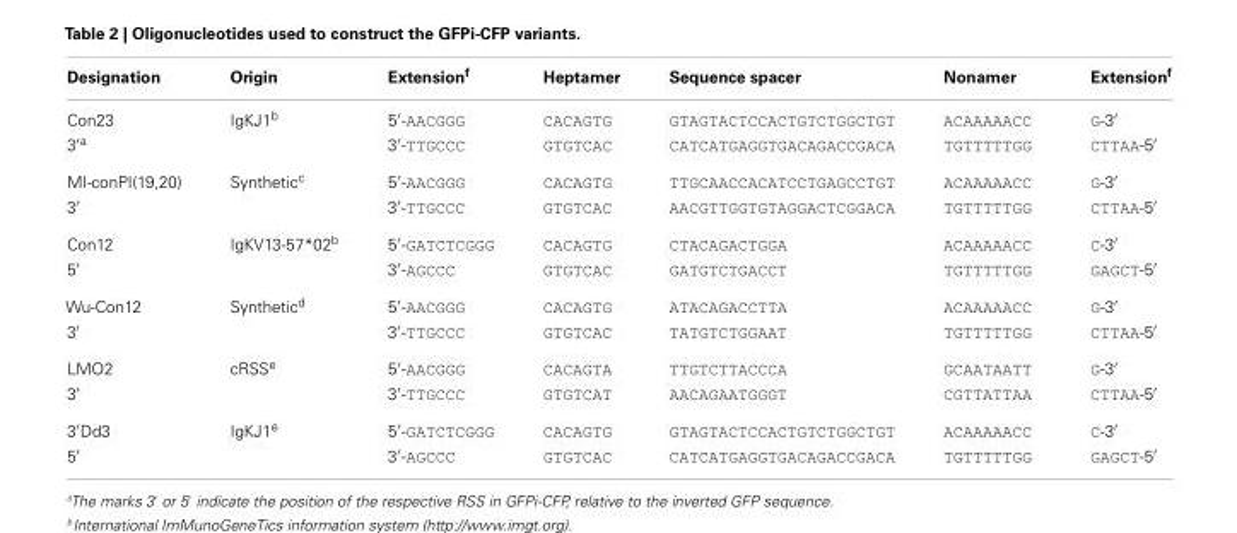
<table><thead><tr><td>Designation</td><td>Origin</td><td>Extension<sup>f</sup></td><td>Heptamer</td><td>Sequence spacer</td><td>Nonamer</td><td>Extension<sup>f</sup></td></tr></thead><tbody><tr><td>Con23</td><td>IgKJ1<sup>b</sup></td><td>5′-AACGGG</td><td>CACAGTG</td><td>GTAGTACTCCACTGTCTGGCTGT</td><td>ACAAAAACC</td><td>G-3′</td></tr><tr><td>3′<sup>a</sup></td><td></td><td>3′-TTGCCC</td><td>GTGTCAC</td><td>CATCATGAGGTGACAGACCGACA</td><td>TGTTTTTGG</td><td>CTTAA-5′</td></tr><tr><td>MI-conPI(19,20)</td><td>Synthetic<sup>c</sup></td><td>5′-AACGGG</td><td>CACAGTG</td><td>TTGCAACCACATCCTGAGCCTGT</td><td>ACAAAAACC</td><td>G-3′</td></tr><tr><td>3′</td><td></td><td>3′-TTGCCC</td><td>GTGTCAC</td><td>AACGTTGGTGTAGGACTCGGACA</td><td>TGTTTTTGG</td><td>CTTAA-5′</td></tr><tr><td>Con12</td><td>IgKV13-57*02<sup>b</sup></td><td>5′-GATCTCGGG</td><td>CACAGTG</td><td>CTACAGACTGGA</td><td>ACAAAAACC</td><td>C-3′</td></tr><tr><td>5′</td><td></td><td>3′-AGCCC</td><td>GTGTCAC</td><td>GATGTCTGACCT</td><td>TGTTTTTGG</td><td>GAGCT-5′</td></tr><tr><td>Wu-Con12</td><td>Synthetic<sup>d</sup></td><td>5′-AACGGG</td><td>CACAGTG</td><td>ATACAGACCTTA</td><td>ACAAAAACC</td><td>G-3′</td></tr><tr><td>3′</td><td></td><td>3′-TTGCCC</td><td>GTGTCAC</td><td>TATGTCTGGAAT</td><td>TGTTTTTGG</td><td>CTTAA-5′</td></tr><tr><td>LMO2</td><td>cRSS<sup>e</sup></td><td>5′-AACGGG</td><td>CACAGTA</td><td>TTGTCTTACCCA</td><td>GCAATAATT</td><td>G-3′</td></tr><tr><td>3′</td><td></td><td>3′-TTGCCC</td><td>GTGTCAT</td><td>AACAGAATGGGT</td><td>CGTTATTAA</td><td>CTTAA-5′</td></tr><tr><td>3′Dd3</td><td>IgKJ1<sup>e</sup></td><td>5′-GATCTCGGG</td><td>CACAGTG</td><td>GTAGTACTCCACTGTCTGGCTGT</td><td>ACAAAAACC</td><td>C-3′</td></tr><tr><td>5′</td><td></td><td>3′-AGCCC</td><td>GTGTCAC</td><td>CATCATGAGGTGACAGACCGACA</td><td>TGTTTTTGG</td><td>GAGCT-5′</td></tr></tbody></table>